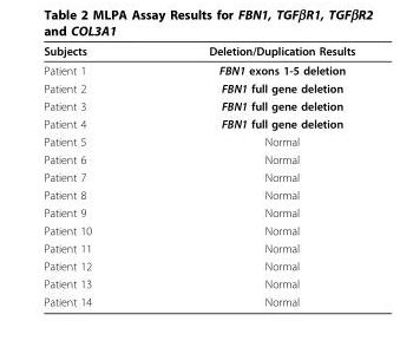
<table><thead><tr><td>Subjects</td><td>Deletion/Duplication Results</td></tr></thead><tbody><tr><td>Patient 1</td><td>FBN1 exons 1-5 deletion</td></tr><tr><td>Patient 2</td><td>FBN1 full gene deletion</td></tr><tr><td>Patient 3</td><td>FBN1 full gene deletion</td></tr><tr><td>Patient 4</td><td>FBN1 full gene deletion</td></tr><tr><td>Patient 5</td><td>Normal</td></tr><tr><td>Patient 6</td><td>Normal</td></tr><tr><td>Patient 7</td><td>Normal</td></tr><tr><td>Patient 8</td><td>Normal</td></tr><tr><td>Patient 9</td><td>Normal</td></tr><tr><td>Patient 10</td><td>Normal</td></tr><tr><td>Patient 11</td><td>Normal</td></tr><tr><td>Patient 12</td><td>Normal</td></tr><tr><td>Patient 13</td><td>Normal</td></tr><tr><td>Patient 14</td><td>Normal</td></tr></tbody></table>